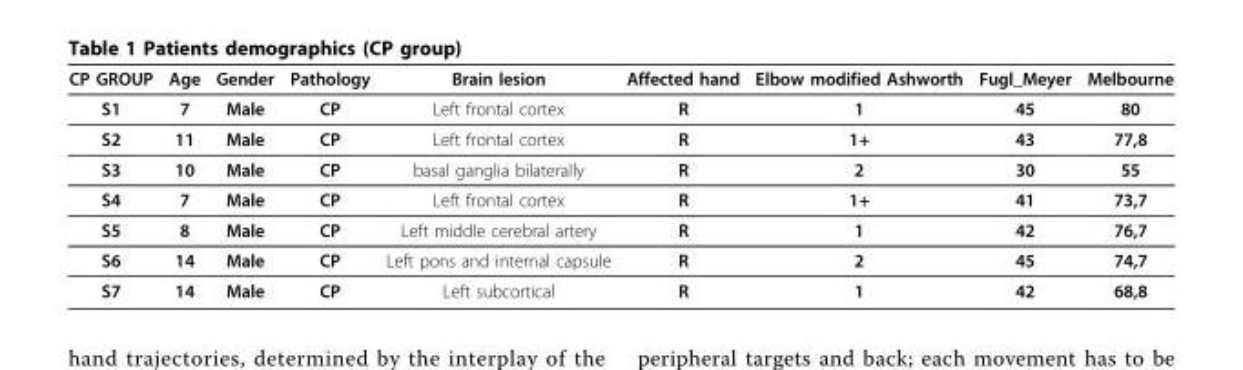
<table><thead><tr><td>CP GROUP</td><td>Age</td><td>Gender</td><td>Pathology</td><td>Brain lesion</td><td>Affected hand</td><td>Elbow modified Ashworth</td><td>Fugl_Meyer</td><td>Melbourne</td></tr></thead><tbody><tr><td>S1</td><td>7</td><td>Male</td><td>CP</td><td>Left frontal cortex</td><td>R</td><td>1</td><td>45</td><td>80</td></tr><tr><td>S2</td><td>11</td><td>Male</td><td>CP</td><td>Left frontal cortex</td><td>R</td><td>1+</td><td>43</td><td>77,8</td></tr><tr><td>S3</td><td>10</td><td>Male</td><td>CP</td><td>basal ganglia bilaterally</td><td>R</td><td>2</td><td>30</td><td>55</td></tr><tr><td>S4</td><td>7</td><td>Male</td><td>CP</td><td>Left frontal cortex</td><td>R</td><td>1+</td><td>41</td><td>73,7</td></tr><tr><td>S5</td><td>8</td><td>Male</td><td>CP</td><td>Left middle cerebral artery</td><td>R</td><td>1</td><td>42</td><td>76,7</td></tr><tr><td>S6</td><td>14</td><td>Male</td><td>CP</td><td>Left pons and internal capsule</td><td>R</td><td>2</td><td>45</td><td>74,7</td></tr><tr><td>S7</td><td>14</td><td>Male</td><td>CP</td><td>Left subcortical</td><td>R</td><td>1</td><td>42</td><td>68,8</td></tr></tbody></table>